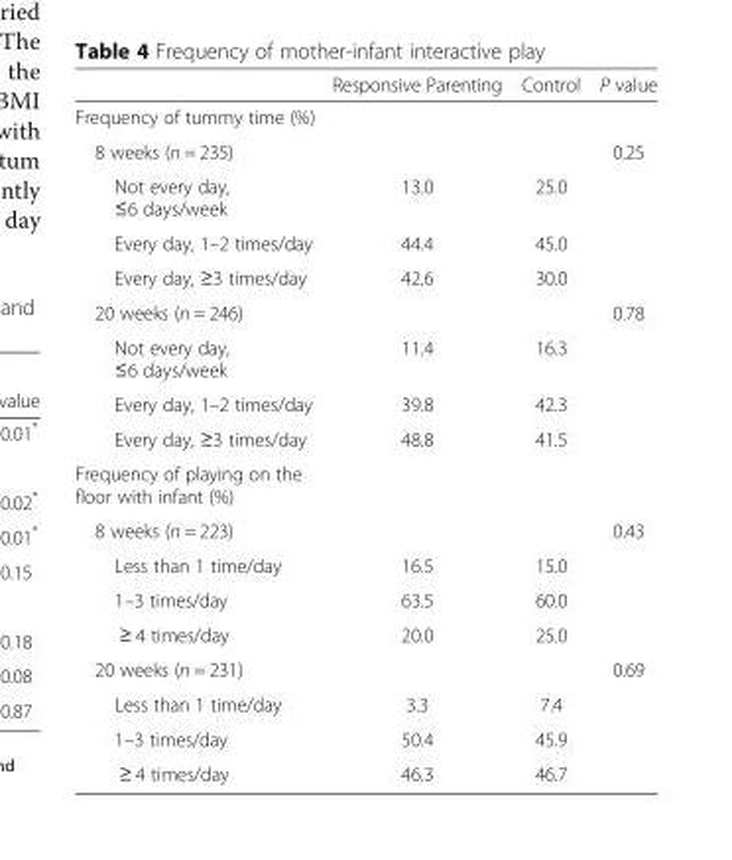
<table><thead><tr><td></td><td>Responsive Parenting</td><td>Control</td><td>P value</td></tr></thead><tbody><tr><td colspan="4">Frequency of tummy time (%)</td></tr><tr><td>8 weeks (n = 235)</td><td></td><td></td><td>0.25</td></tr><tr><td>Not every day, ≤6 days/week</td><td>13.0</td><td>25.0</td><td></td></tr><tr><td>Every day, 1–2 times/day</td><td>44.4</td><td>45.0</td><td></td></tr><tr><td>Every day, ≥3 times/day</td><td>42.6</td><td>30.0</td><td></td></tr><tr><td>20 weeks (n = 246)</td><td></td><td></td><td>0.78</td></tr><tr><td>Not every day, ≤6 days/week</td><td>11.4</td><td>16.3</td><td></td></tr><tr><td>Every day, 1–2 times/day</td><td>39.8</td><td>42.3</td><td></td></tr><tr><td>Every day, ≥3 times/day</td><td>48.8</td><td>41.5</td><td></td></tr><tr><td colspan="4">Frequency of playing on the floor with infant (%)</td></tr><tr><td>8 weeks (n = 223)</td><td></td><td></td><td>0.43</td></tr><tr><td>Less than 1 time/day</td><td>16.5</td><td>15.0</td><td></td></tr><tr><td>1–3 times/day</td><td>63.5</td><td>60.0</td><td></td></tr><tr><td>≥ 4 times/day</td><td>20.0</td><td>25.0</td><td></td></tr><tr><td>20 weeks (n = 231)</td><td></td><td></td><td>0.69</td></tr><tr><td>Less than 1 time/day</td><td>3.3</td><td>7.4</td><td></td></tr><tr><td>1–3 times/day</td><td>50.4</td><td>45.9</td><td></td></tr><tr><td>≥ 4 times/day</td><td>46.3</td><td>46.7</td><td></td></tr></tbody></table>